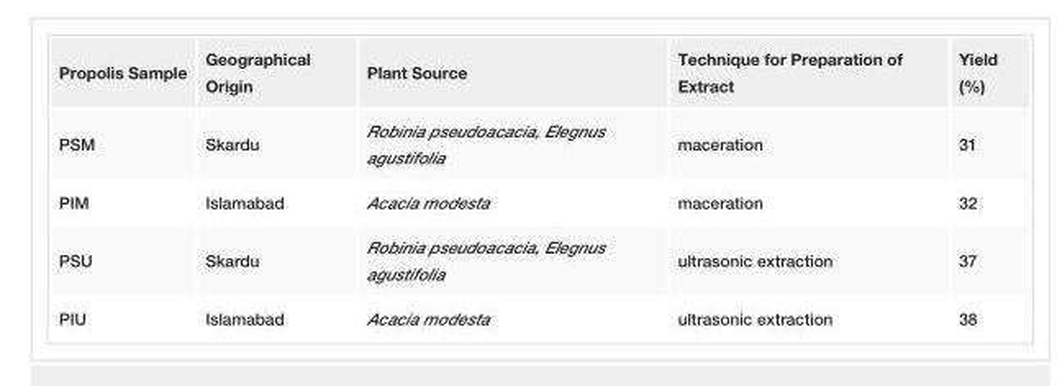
<table><tbody><tr><td>Propolis Sample</td><td>Geographical Origin</td><td>Plant Source</td><td>Technique for Preparation of Extract</td><td>Yield (%)</td></tr><tr><td>PSM</td><td>Skardu</td><td>Robinia pseudoacacia, Elegnus agustifolia</td><td>maceration</td><td>31</td></tr><tr><td>PIM</td><td>Islamabad</td><td>Acacia modesta</td><td>maceration</td><td>32</td></tr><tr><td>PSU</td><td>Skardu</td><td>Robinia pseudoacacia, Elegnus agustifolia</td><td>ultrasonic extraction</td><td>37</td></tr><tr><td>PIU</td><td>Islamabad</td><td>Acacia modesta</td><td>ultrasonic extraction</td><td>38</td></tr></tbody></table>